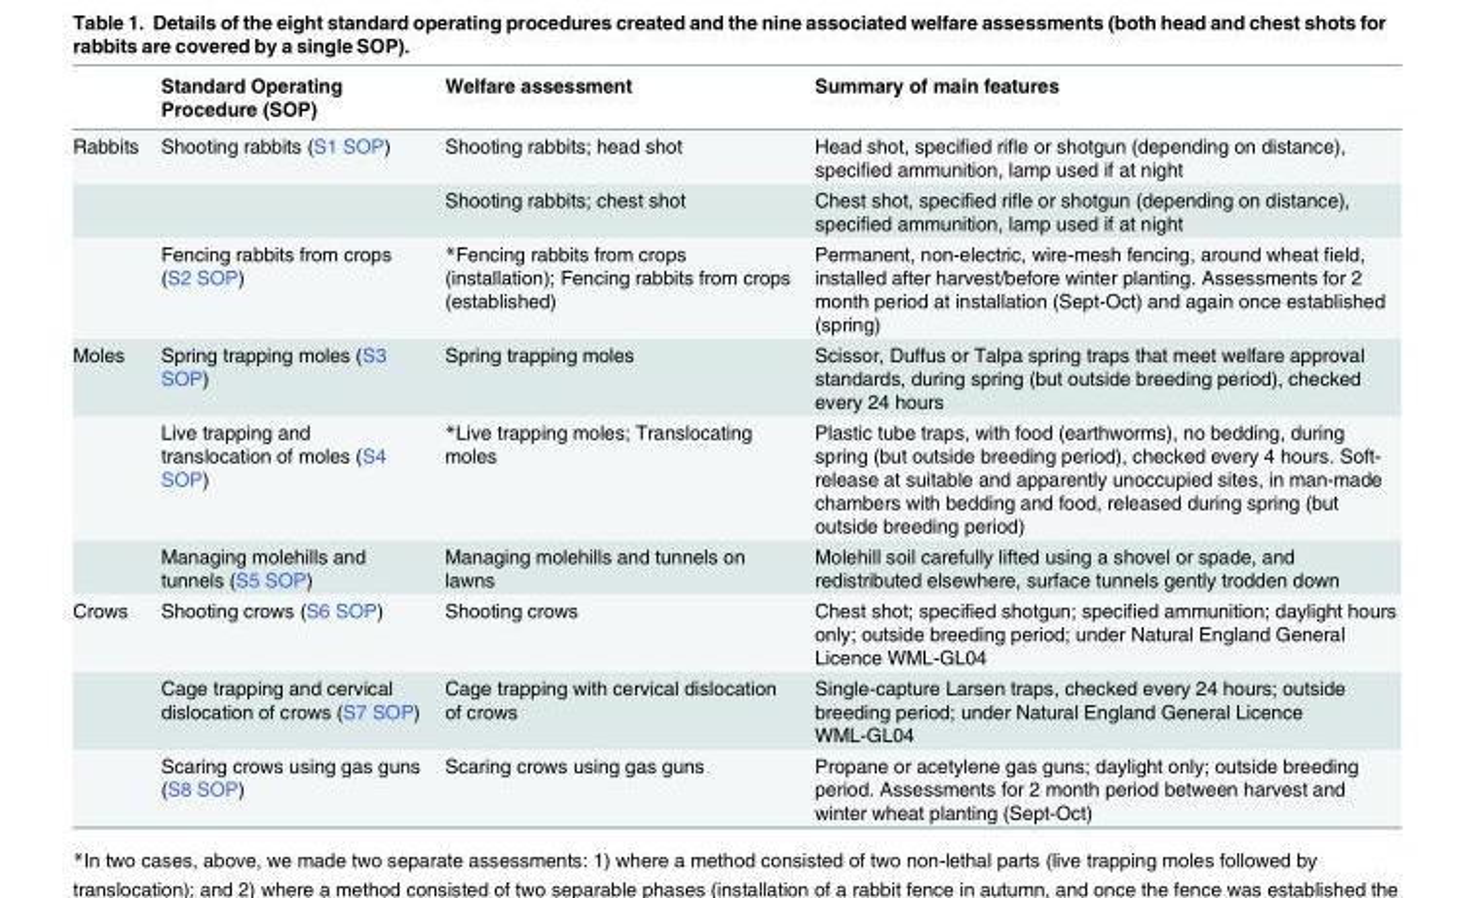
<table><thead><tr><td></td><td>Standard Operating Procedure (SOP)</td><td>Welfare assessment</td><td>Summary of main features</td></tr></thead><tbody><tr><td rowspan="3">Rabbits</td><td>Shooting rabbits (S1 SOP)</td><td>Shooting rabbits; head shot</td><td>Head shot, specified rifle or shotgun (depending on distance), specified ammunition, lamp used if at night</td></tr><tr><td></td><td>Shooting rabbits; chest shot</td><td>Chest shot, specified rifle or shotgun (depending on distance), specified ammunition, lamp used if at night</td></tr><tr><td>Fencing rabbits from crops (S2 SOP)</td><td>*Fencing rabbits from crops (installation); Fencing rabbits from crops (established)</td><td>Permanent, non-electric, wire-mesh fencing, around wheat field, installed after harvest/before winter planting. Assessments for 2 month period at installation (Sept-Oct) and again once established (spring)</td></tr><tr><td rowspan="3">Moles</td><td>Spring trapping moles (S3 SOP)</td><td>Spring trapping moles</td><td>Scissor, Duffus or Talpa spring traps that meet welfare approval standards, during spring (but outside breeding period), checked every 24 hours</td></tr><tr><td>Live trapping and translocation of moles (S4 SOP)</td><td>*Live trapping moles; Translocating moles</td><td>Plastic tube traps, with food (earthworms), no bedding, during spring (but outside breeding period), checked every 4 hours. Soft- release at suitable and apparently unoccupied sites, in man-made chambers with bedding and food, released during spring (but outside breeding period)</td></tr><tr><td>Managing molehills and tunnels (S5 SOP)</td><td>Managing molehills and tunnels on lawns</td><td>Molehill soil carefully lifted using a shovel or spade, and redistributed elsewhere, surface tunnels gently trodden down</td></tr><tr><td rowspan="3">Crows</td><td>Shooting crows (S6 SOP)</td><td>Shooting crows</td><td>Chest shot; specified shotgun; specified ammunition; daylight hours only; outside breeding period; under Natural England General Licence WML-GL04</td></tr><tr><td>Cage trapping and cervical dislocation of crows (S7 SOP)</td><td>Cage trapping with cervical dislocation of crows</td><td>Single-capture Larsen traps, checked every 24 hours; outside breeding period; under Natural England General Licence WML-GL04</td></tr><tr><td>Scaring crows using gas guns (S8 SOP)</td><td>Scaring crows using gas guns</td><td>Propane or acetylene gas guns; daylight only; outside breeding period. Assessments for 2 month period between harvest and winter wheat planting (Sept-Oct)</td></tr></tbody></table>